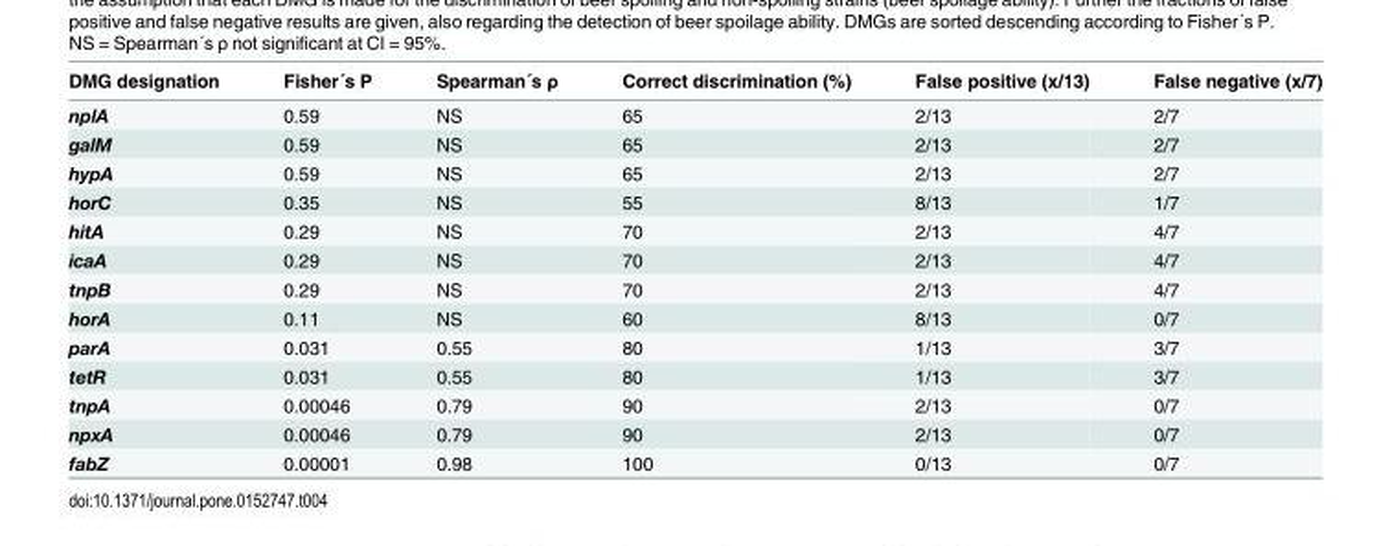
<table><thead><tr><td>DMG designation</td><td>Fisher´s P</td><td>Spearman´s ρ</td><td>Correct discrimination (%)</td><td>False positive (x/13)</td><td>False negative (x/7)</td></tr></thead><tbody><tr><td>nplA</td><td>0.59</td><td>NS</td><td>65</td><td>2/13</td><td>2/7</td></tr><tr><td>galM</td><td>0.59</td><td>NS</td><td>65</td><td>2/13</td><td>2/7</td></tr><tr><td>hypA</td><td>0.59</td><td>NS</td><td>65</td><td>2/13</td><td>2/7</td></tr><tr><td>horC</td><td>0.35</td><td>NS</td><td>55</td><td>8/13</td><td>1/7</td></tr><tr><td>hitA</td><td>0.29</td><td>NS</td><td>70</td><td>2/13</td><td>4/7</td></tr><tr><td>icaA</td><td>0.29</td><td>NS</td><td>70</td><td>2/13</td><td>4/7</td></tr><tr><td>tnpB</td><td>0.29</td><td>NS</td><td>70</td><td>2/13</td><td>4/7</td></tr><tr><td>horA</td><td>0.11</td><td>NS</td><td>60</td><td>8/13</td><td>0/7</td></tr><tr><td>parA</td><td>0.031</td><td>0.55</td><td>80</td><td>1/13</td><td>3/7</td></tr><tr><td>tetR</td><td>0.031</td><td>0.55</td><td>80</td><td>1/13</td><td>3/7</td></tr><tr><td>tnpA</td><td>0.00046</td><td>0.79</td><td>90</td><td>2/13</td><td>0/7</td></tr><tr><td>npxA</td><td>0.00046</td><td>0.79</td><td>90</td><td>2/13</td><td>0/7</td></tr><tr><td>fabZ</td><td>0.00001</td><td>0.98</td><td>100</td><td>0/13</td><td>0/7</td></tr></tbody></table>